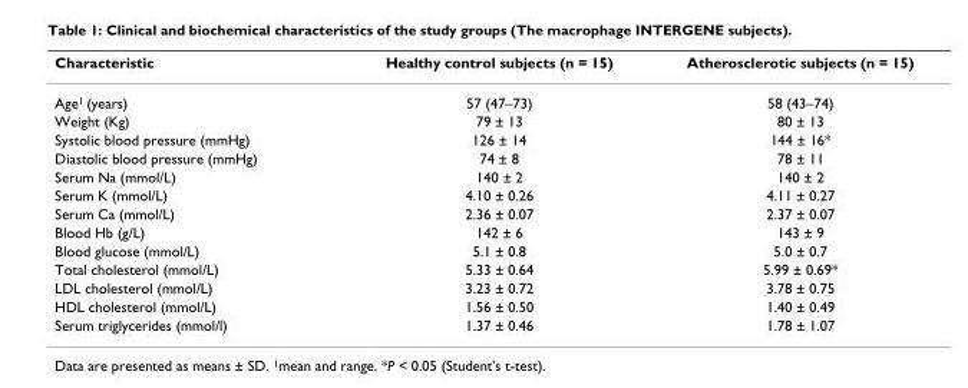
<table><thead><tr><td>Characteristic</td><td>Healthy control subjects (n = 15)</td><td>Atherosclerotic subjects (n = 15)</td></tr></thead><tbody><tr><td>Age<sup>1</sup> (years)</td><td>57 (47–73)</td><td>58 (43–74)</td></tr><tr><td>Weight (Kg)</td><td>79 ± 13</td><td>80 ± 13</td></tr><tr><td>Systolic blood pressure (mmHg)</td><td>126 ± 14</td><td>144 ± 16*</td></tr><tr><td>Diastolic blood pressure (mmHg)</td><td>74 ± 8</td><td>78 ± 11</td></tr><tr><td>Serum Na (mmol/L)</td><td>140 ± 2</td><td>140 ± 2</td></tr><tr><td>Serum K (mmol/L)</td><td>4.10 ± 0.26</td><td>4.11 ± 0.27</td></tr><tr><td>Serum Ca (mmol/L)</td><td>2.36 ± 0.07</td><td>2.37 ± 0.07</td></tr><tr><td>Blood Hb (g/L)</td><td>142 ± 6</td><td>143 ± 9</td></tr><tr><td>Blood glucose (mmol/L)</td><td>5.1 ± 0.8</td><td>5.0 ± 0.7</td></tr><tr><td>Total cholesterol (mmol/L)</td><td>5.33 ± 0.64</td><td>5.99 ± 0.69*</td></tr><tr><td>LDL cholesterol (mmol/L)</td><td>3.23 ± 0.72</td><td>3.78 ± 0.75</td></tr><tr><td>HDL cholesterol (mmol/L)</td><td>1.56 ± 0.50</td><td>1.40 ± 0.49</td></tr><tr><td>Serum triglycerides (mmol/l)</td><td>1.37 ± 0.46</td><td>1.78 ± 1.07</td></tr></tbody></table>